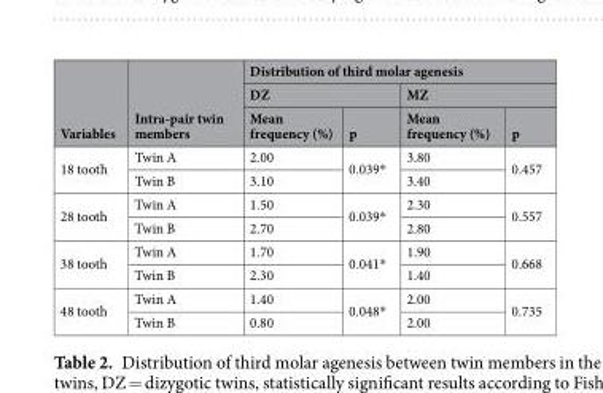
<table><thead><tr><td rowspan="3">Variables</td><td rowspan="3">Intra-pair twin members</td><td colspan="4">Distribution of third molar agenesis</td></tr><tr><td colspan="2">DZ</td><td colspan="2">MZ</td></tr><tr><td>Mean frequency (%)</td><td>p</td><td>Mean frequency (%)</td><td>p</td></tr></thead><tbody><tr><td rowspan="2">18 tooth</td><td>Twin A</td><td>2.00</td><td rowspan="2">0.039*</td><td>3.80</td><td rowspan="2">0.457</td></tr><tr><td>Twin B</td><td>3.10</td><td>3.40</td></tr><tr><td rowspan="2">28 tooth</td><td>Twin A</td><td>1.50</td><td rowspan="2">0.039*</td><td>2.30</td><td rowspan="2">0.557</td></tr><tr><td>Twin B</td><td>2.70</td><td>2.80</td></tr><tr><td rowspan="2">38 tooth</td><td>Twin A</td><td>1.70</td><td rowspan="2">0.041*</td><td>1.90</td><td rowspan="2">0.668</td></tr><tr><td>Twin B</td><td>2.30</td><td>1.40</td></tr><tr><td rowspan="2">48 tooth</td><td>Twin A</td><td>1.40</td><td rowspan="2">0.048*</td><td>2.00</td><td rowspan="2">0.735</td></tr><tr><td>Twin B</td><td>0.80</td><td>2.00</td></tr></tbody></table>